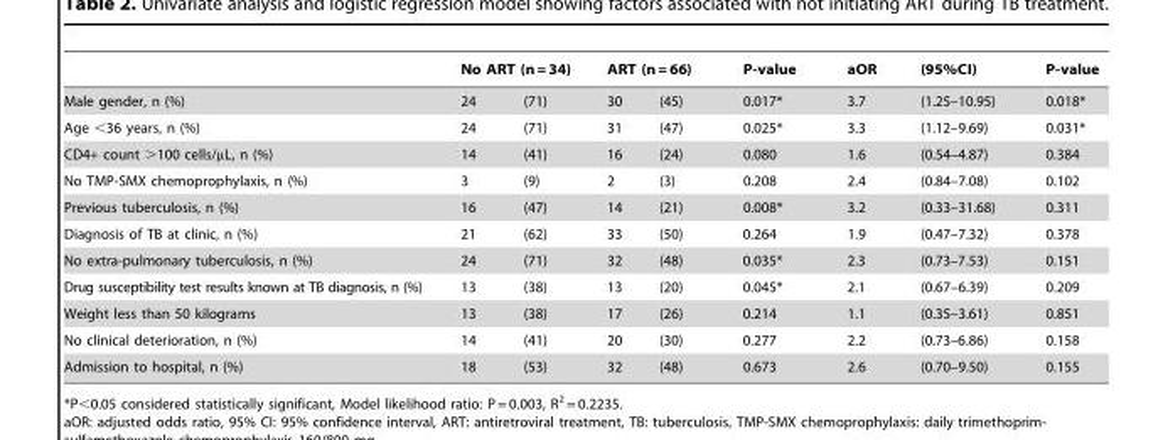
<table><thead><tr><td rowspan="2">Male gender, n (%)</td><td colspan="2">No ART (n = 34)</td><td colspan="2">ART (n = 66)</td><td rowspan="2">P-value 0.017*</td><td rowspan="2">aOR 3.7</td><td rowspan="2">(95%CI) (1.25–10.95)</td><td rowspan="2">P-value 0.018*</td></tr><tr><td>24</td><td>(71)</td><td>30</td><td>(45)</td></tr></thead><tbody><tr><td>Age &lt;36 years, n (%)</td><td>24</td><td>(71)</td><td>31</td><td>(47)</td><td>0.025*</td><td>3.3</td><td>(1.12–9.69)</td><td>0.031*</td></tr><tr><td>CD4+ count &gt;100 cells/µL, n (%)</td><td>14</td><td>(41)</td><td>16</td><td>(24)</td><td>0.080</td><td>1.6</td><td>(0.54–4.87)</td><td>0.384</td></tr><tr><td>No TMP-SMX chemoprophylaxis, n (%)</td><td>3</td><td>(9)</td><td>2</td><td>(3)</td><td>0.208</td><td>2.4</td><td>(0.84–7.08)</td><td>0.102</td></tr><tr><td>Previous tuberculosis, n (%)</td><td>16</td><td>(47)</td><td>14</td><td>(21)</td><td>0.008*</td><td>3.2</td><td>(0.33–31.68)</td><td>0.311</td></tr><tr><td>Diagnosis of TB at clinic, n (%)</td><td>21</td><td>(62)</td><td>33</td><td>(50)</td><td>0.264</td><td>1.9</td><td>(0.47–7.32)</td><td>0.378</td></tr><tr><td>No extra-pulmonary tuberculosis, n (%)</td><td>24</td><td>(71)</td><td>32</td><td>(48)</td><td>0.035*</td><td>2.3</td><td>(0.73–7.53)</td><td>0.151</td></tr><tr><td>Drug susceptibility test results known at TB diagnosis, n (%)</td><td>13</td><td>(38)</td><td>13</td><td>(20)</td><td>0.045*</td><td>2.1</td><td>(0.67–6.39)</td><td>0.209</td></tr><tr><td>Weight less than 50 kilograms</td><td>13</td><td>(38)</td><td>17</td><td>(26)</td><td>0.214</td><td>1.1</td><td>(0.35–3.61)</td><td>0.851</td></tr><tr><td>No clinical deterioration, n (%)</td><td>14</td><td>(41)</td><td>20</td><td>(30)</td><td>0.277</td><td>2.2</td><td>(0.73–6.86)</td><td>0.158</td></tr><tr><td>Admission to hospital, n (%)</td><td>18</td><td>(53)</td><td>32</td><td>(48)</td><td>0.673</td><td>2.6</td><td>(0.70–9.50)</td><td>0.155</td></tr></tbody></table>